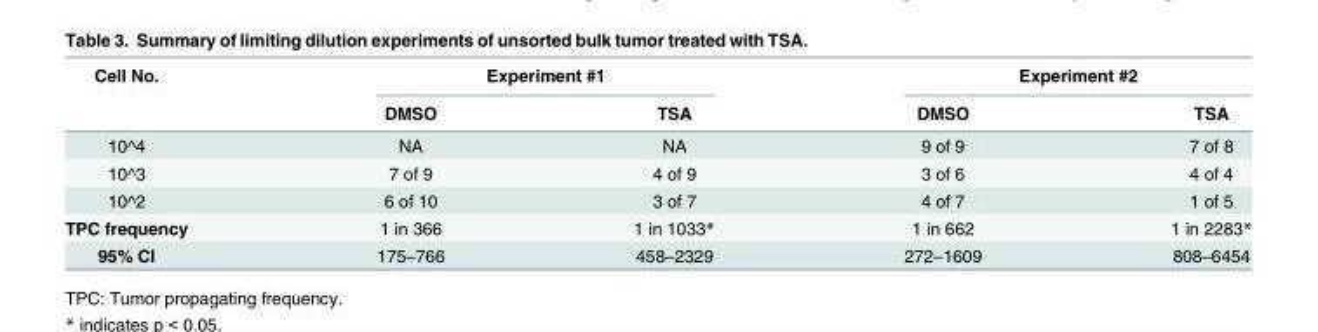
<table><thead><tr><td rowspan="2">Cell No.</td><td colspan="2">Experiment #1</td><td colspan="2">Experiment #2</td></tr><tr><td>DMSO</td><td>TSA</td><td>DMSO</td><td>TSA</td></tr></thead><tbody><tr><td>10^4</td><td>NA</td><td>NA</td><td>9 of 9</td><td>7 of 8</td></tr><tr><td>10^3</td><td>7 of 9</td><td>4 of 9</td><td>3 of 6</td><td>4 of 4</td></tr><tr><td>10^2</td><td>6 of 10</td><td>3 of 7</td><td>4 of 7</td><td>1 of 5</td></tr><tr><td>TPC frequency</td><td>1 in 366</td><td>1 in 1033*</td><td>1 in 662</td><td>1 in 2283*</td></tr><tr><td>95% CI</td><td>175–766</td><td>458–2329</td><td>272–1609</td><td>808–6454</td></tr></tbody></table>